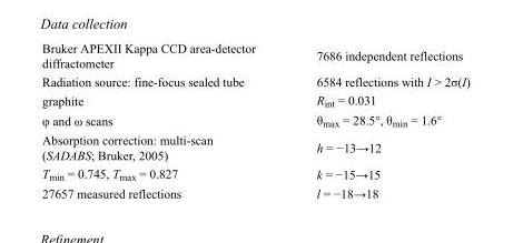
<table><tbody><tr><td>Bruker APEXII Kappa CCD area-detector diffractometer</td><td>7686 independent reflections</td></tr><tr><td>Radiation source: fine-focus sealed tube</td><td>6584 reflections with I &gt; 2σ(I)</td></tr><tr><td>graphite</td><td>R<sub>int</sub> = 0.031</td></tr><tr><td>φ and ω scans</td><td>θ<sub>max</sub> = 28.5°, θ<sub>min</sub> = 1.6°</td></tr><tr><td>Absorption correction: multi-scan (SADABS; Bruker, 2005)</td><td>h = −13→12</td></tr><tr><td>T<sub>min</sub> = 0.745, T<sub>max</sub> = 0.827</td><td>k = −15→15</td></tr><tr><td>27657 measured reflections</td><td>l = −18→18</td></tr></tbody></table>